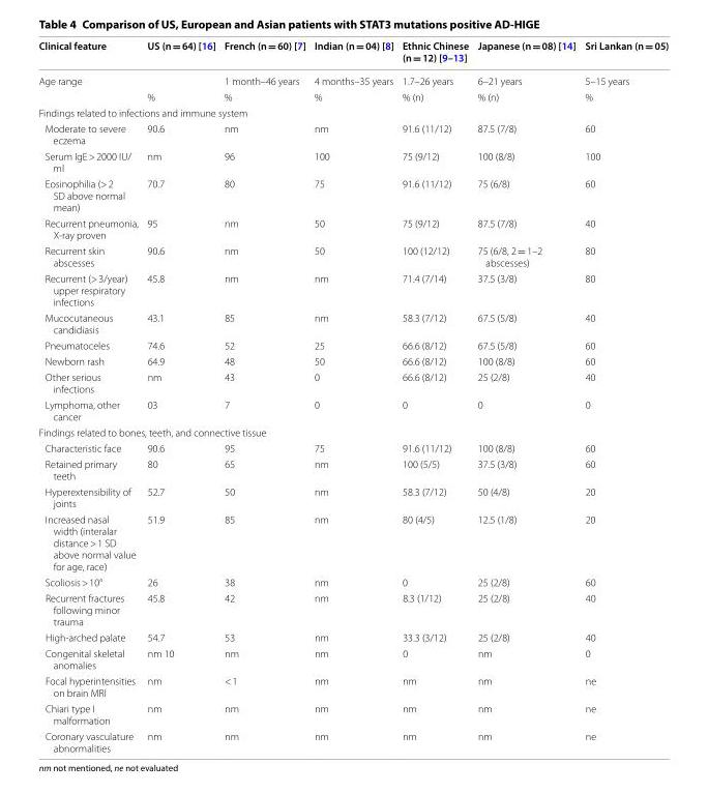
<table><thead><tr><td>Clinical feature</td><td>US (n = 64) [16]</td><td>French (n = 60) [7]</td><td>Indian (n = 04) [8]</td><td>Ethnic Chinese (n = 12) [9–13]</td><td>Japanese (n = 08) [14]</td><td>Sri Lankan (n = 05)</td></tr></thead><tbody><tr><td rowspan="2">Age range</td><td></td><td>1 month–46 years</td><td>4 months–35 years</td><td>1.7–26 years</td><td>6–21 years</td><td>5–15 years</td></tr><tr><td>%</td><td>%</td><td>%</td><td>% (n)</td><td>% (n)</td><td>%</td></tr><tr><td colspan="7">Findings related to infections and immune system</td></tr><tr><td>Moderate to severe eczema</td><td>90.6</td><td>nm</td><td>nm</td><td>91.6 (11/12)</td><td>87.5 (7/8)</td><td>60</td></tr><tr><td>Serum IgE &gt; 2000 IU/ ml</td><td>nm</td><td>96</td><td>100</td><td>75 (9/12)</td><td>100 (8/8)</td><td>100</td></tr><tr><td>Eosinophilia (&gt; 2 SD above normal mean)</td><td>70.7</td><td>80</td><td>75</td><td>91.6 (11/12)</td><td>75 (6/8)</td><td>60</td></tr><tr><td>Recurrent pneumonia, X-ray proven</td><td>95</td><td>nm</td><td>50</td><td>75 (9/12)</td><td>87.5 (7/8)</td><td>40</td></tr><tr><td>Recurrent skin abscesses</td><td>90.6</td><td>nm</td><td>50</td><td>100 (12/12)</td><td>75 (6/8, 2 = 1–2 abscesses)</td><td>80</td></tr><tr><td>Recurrent (&gt; 3/year) upper respiratory infections</td><td>45.8</td><td>nm</td><td>nm</td><td>71.4 (7/14)</td><td>37.5 (3/8)</td><td>80</td></tr><tr><td>Mucocutaneous candidiasis</td><td>43.1</td><td>85</td><td>nm</td><td>58.3 (7/12)</td><td>67.5 (5/8)</td><td>40</td></tr><tr><td>Pneumatoceles</td><td>74.6</td><td>52</td><td>25</td><td>66.6 (8/12)</td><td>67.5 (5/8)</td><td>60</td></tr><tr><td>Newborn rash</td><td>64.9</td><td>48</td><td>50</td><td>66.6 (8/12)</td><td>100 (8/8)</td><td>60</td></tr><tr><td>Other serious infections</td><td>nm</td><td>43</td><td>0</td><td>66.6 (8/12)</td><td>25 (2/8)</td><td>40</td></tr><tr><td>Lymphoma, other cancer</td><td>03</td><td>7</td><td>0</td><td>0</td><td>0</td><td>0</td></tr><tr><td colspan="7">Findings related to bones, teeth, and connective tissue</td></tr><tr><td>Characteristic face</td><td>90.6</td><td>95</td><td>75</td><td>91.6 (11/12)</td><td>100 (8/8)</td><td>60</td></tr><tr><td>Retained primary teeth</td><td>80</td><td>65</td><td>nm</td><td>100 (5/5)</td><td>37.5 (3/8)</td><td>60</td></tr><tr><td>Hyperextensibility of joints</td><td>52.7</td><td>50</td><td>nm</td><td>58.3 (7/12)</td><td>50 (4/8)</td><td>20</td></tr><tr><td>Increased nasal width (interalar distance &gt; 1 SD above normal value for age, race)</td><td>51.9</td><td>85</td><td>nm</td><td>80 (4/5)</td><td>12.5 (1/8)</td><td>20</td></tr><tr><td>Scoliosis &gt; 10°</td><td>26</td><td>38</td><td>nm</td><td>0</td><td>25 (2/8)</td><td>60</td></tr><tr><td>Recurrent fractures following minor trauma</td><td>45.8</td><td>42</td><td>nm</td><td>8.3 (1/12)</td><td>25 (2/8)</td><td>40</td></tr><tr><td>High-arched palate</td><td>54.7</td><td>53</td><td>nm</td><td>33.3 (3/12)</td><td>25 (2/8)</td><td>40</td></tr><tr><td>Congenital skeletal anomalies</td><td>nm 10</td><td>nm</td><td>nm</td><td>0</td><td>nm</td><td>0</td></tr><tr><td>Focal hyperintensities on brain MRI</td><td>nm</td><td>&lt; 1</td><td>nm</td><td>nm</td><td>nm</td><td>ne</td></tr><tr><td>Chiari type I malformation</td><td>nm</td><td>nm</td><td>nm</td><td>nm</td><td>nm</td><td>ne</td></tr><tr><td>Coronary vasculature abnormalities</td><td>nm</td><td>nm</td><td>nm</td><td>nm</td><td>nm</td><td>ne</td></tr></tbody></table>